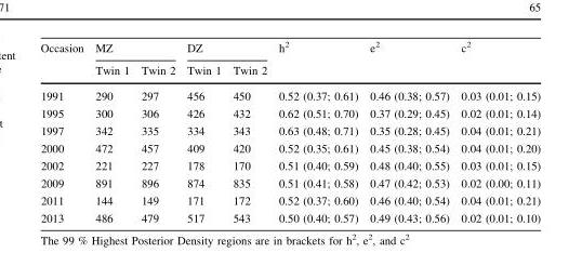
<table><thead><tr><td rowspan="2">Occasion</td><td colspan="2">MZ</td><td colspan="2">DZ</td><td rowspan="2">h<sup>2</sup></td><td rowspan="2">e<sup>2</sup></td><td rowspan="2">c<sup>2</sup></td></tr><tr><td>Twin 1</td><td>Twin 2</td><td>Twin 1</td><td>Twin 2</td></tr></thead><tbody><tr><td>1991</td><td>290</td><td>297</td><td>456</td><td>450</td><td>0.52 (0.37; 0.61)</td><td>0.46 (0.38; 0.57)</td><td>0.03 (0.01; 0.15)</td></tr><tr><td>1995</td><td>300</td><td>306</td><td>426</td><td>432</td><td>0.62 (0.51; 0.70)</td><td>0.37 (0.29; 0.45)</td><td>0.02 (0.01; 0.14)</td></tr><tr><td>1997</td><td>342</td><td>335</td><td>334</td><td>343</td><td>0.63 (0.48; 0.71)</td><td>0.35 (0.28; 0.45)</td><td>0.04 (0.01; 0.21)</td></tr><tr><td>2000</td><td>472</td><td>457</td><td>409</td><td>420</td><td>0.52 (0.35; 0.61)</td><td>0.45 (0.38; 0.54)</td><td>0.04 (0.01; 0.20)</td></tr><tr><td>2002</td><td>221</td><td>227</td><td>178</td><td>170</td><td>0.51 (0.40; 0.59)</td><td>0.48 (0.40; 0.55)</td><td>0.03 (0.01; 0.15)</td></tr><tr><td>2009</td><td>891</td><td>896</td><td>874</td><td>835</td><td>0.51 (0.41; 0.58)</td><td>0.47 (0.42; 0.53)</td><td>0.02 (0.00; 0.11)</td></tr><tr><td>2011</td><td>144</td><td>149</td><td>171</td><td>172</td><td>0.52 (0.37; 0.60)</td><td>0.46 (0.40; 0.54)</td><td>0.04 (0.01; 0.21)</td></tr><tr><td>2013</td><td>486</td><td>479</td><td>517</td><td>543</td><td>0.50 (0.40; 0.57)</td><td>0.49 (0.43; 0.56)</td><td>0.02 (0.01; 0.10)</td></tr></tbody></table>